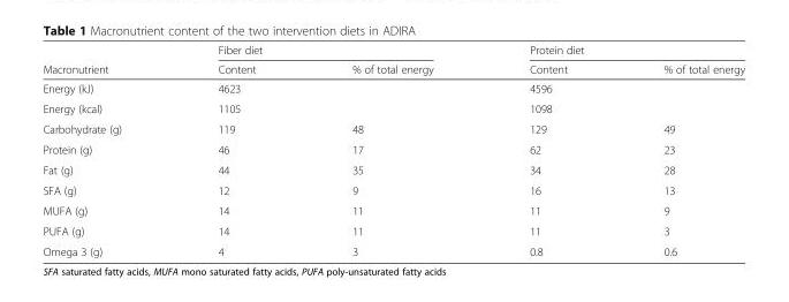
<table><thead><tr><td rowspan="2">Macronutrient</td><td colspan="2">Fiber diet</td><td colspan="2">Protein diet</td></tr><tr><td>Content</td><td>% of total energy</td><td>Content</td><td>% of total energy</td></tr></thead><tbody><tr><td>Energy (kJ)</td><td>4623</td><td></td><td>4596</td><td></td></tr><tr><td>Energy (kcal)</td><td>1105</td><td></td><td>1098</td><td></td></tr><tr><td>Carbohydrate (g)</td><td>119</td><td>48</td><td>129</td><td>49</td></tr><tr><td>Protein (g)</td><td>46</td><td>17</td><td>62</td><td>23</td></tr><tr><td>Fat (g)</td><td>44</td><td>35</td><td>34</td><td>28</td></tr><tr><td>SFA (g)</td><td>12</td><td>9</td><td>16</td><td>13</td></tr><tr><td>MUFA (g)</td><td>14</td><td>11</td><td>11</td><td>9</td></tr><tr><td>PUFA (g)</td><td>14</td><td>11</td><td>11</td><td>3</td></tr><tr><td>Omega 3 (g)</td><td>4</td><td>3</td><td>0.8</td><td>0.6</td></tr></tbody></table>